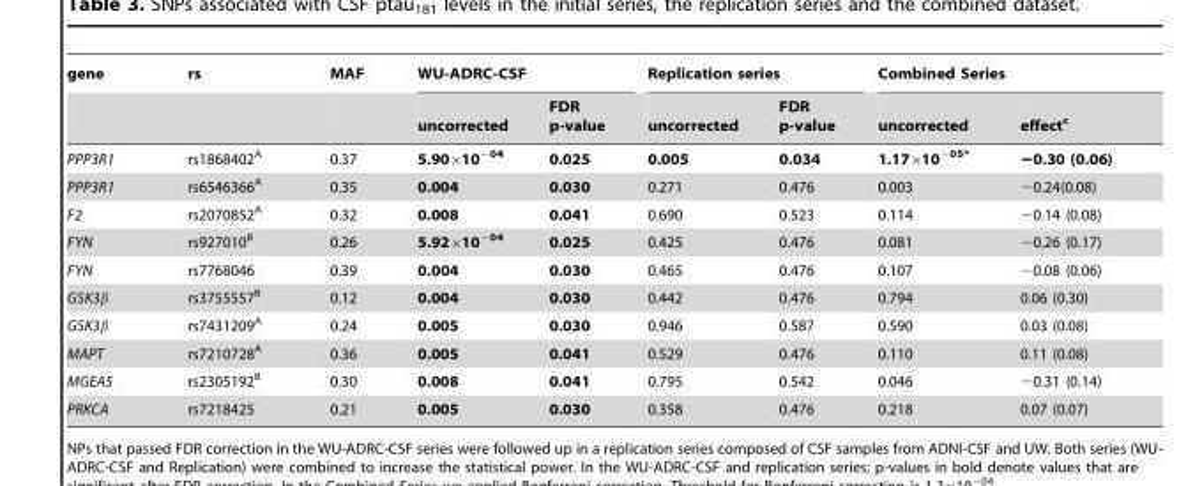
<table><thead><tr><td rowspan="2">gene</td><td rowspan="2">rs</td><td rowspan="2">MAF</td><td colspan="2">WU-ADRC-CSF</td><td colspan="2">Replication series</td><td colspan="2">Combined Series</td></tr><tr><td>uncorrected</td><td>FDR p-value</td><td>uncorrected</td><td>FDR p-value</td><td>uncorrected</td><td>effect<sup>c</sup></td></tr></thead><tbody><tr><td>PPP3R1</td><td>rs1868402<sup>A</sup></td><td>0.37</td><td>5.90×10<sup>−04</sup></td><td>0.025</td><td>0.005</td><td>0.034</td><td>1.17×10<sup>−05*</sup></td><td>−0.30 (0.06)</td></tr><tr><td>PPP3R1</td><td>rs6546366<sup>A</sup></td><td>0.35</td><td>0.004</td><td>0.030</td><td>0.271</td><td>0.476</td><td>0.003</td><td>−0.24(0.08)</td></tr><tr><td>F2</td><td>rs2070852<sup>A</sup></td><td>0.32</td><td>0.008</td><td>0.041</td><td>0.690</td><td>0.523</td><td>0.114</td><td>−0.14 (0.08)</td></tr><tr><td>FYN</td><td>rs927010<sup>B</sup></td><td>0.26</td><td>5.92×10<sup>−04</sup></td><td>0.025</td><td>0.425</td><td>0.476</td><td>0.081</td><td>−0.26 (0.17)</td></tr><tr><td>FYN</td><td>rs7768046</td><td>0.39</td><td>0.004</td><td>0.030</td><td>0.465</td><td>0.476</td><td>0.107</td><td>−0.08 (0.06)</td></tr><tr><td>GSK3β</td><td>rs3755557<sup>B</sup></td><td>0.12</td><td>0.004</td><td>0.030</td><td>0.442</td><td>0.476</td><td>0.794</td><td>0.06 (0.30)</td></tr><tr><td>GSK3β</td><td>rs7431209<sup>A</sup></td><td>0.24</td><td>0.005</td><td>0.030</td><td>0.946</td><td>0.587</td><td>0.590</td><td>0.03 (0.08)</td></tr><tr><td>MAPT</td><td>rs7210728<sup>A</sup></td><td>0.36</td><td>0.005</td><td>0.041</td><td>0.529</td><td>0.476</td><td>0.110</td><td>0.11 (0.08)</td></tr><tr><td>MGEA5</td><td>rs2305192<sup>B</sup></td><td>0.30</td><td>0.008</td><td>0.041</td><td>0.795</td><td>0.542</td><td>0.046</td><td>−0.31 (0.14)</td></tr><tr><td>PRKCA</td><td>rs7218425</td><td>0.21</td><td>0.005</td><td>0.030</td><td>0.358</td><td>0.476</td><td>0.218</td><td>0.07 (0.07)</td></tr></tbody></table>